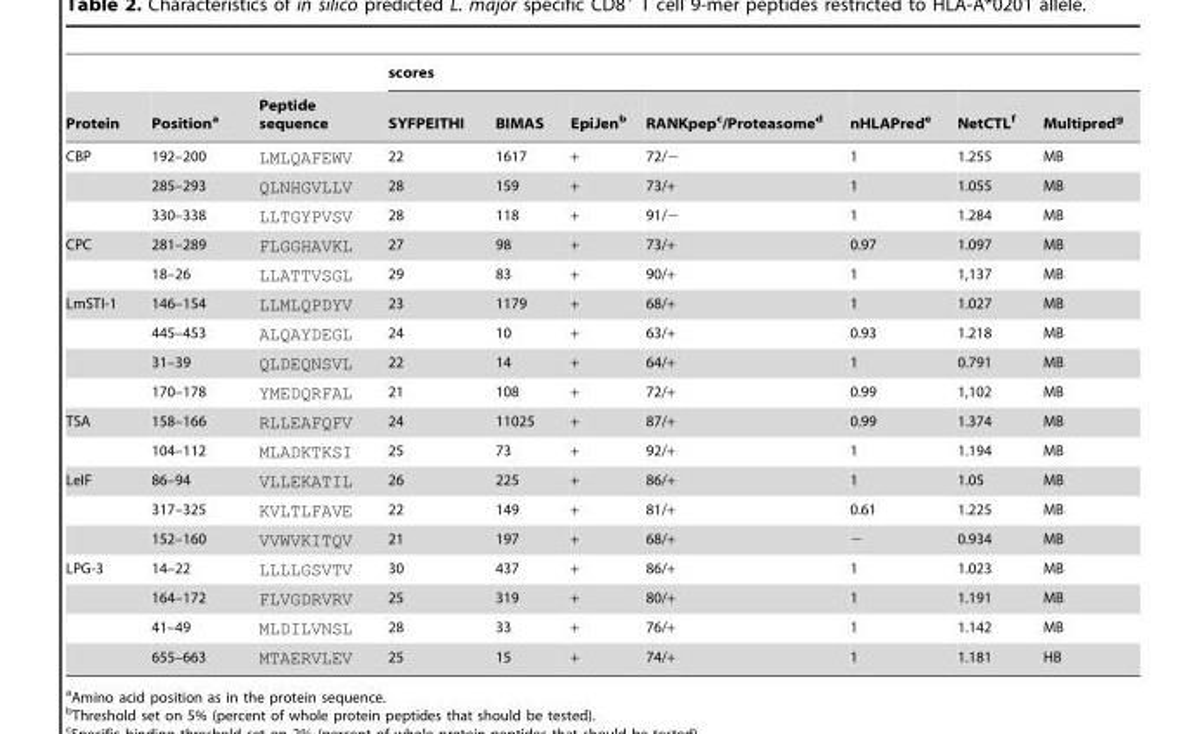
<table><thead><tr><td rowspan="2">Protein</td><td rowspan="2">Position<sup>a</sup></td><td rowspan="2">Peptide sequence</td><td colspan="7">scores</td></tr><tr><td>SYFPEITHI</td><td>BIMAS</td><td>EpiJen<sup>b</sup></td><td>RANKpep<sup>c</sup>/Proteasome<sup>d</sup></td><td>nHLAPred<sup>e</sup></td><td>NetCTL<sup>f</sup></td><td>Multipred<sup>g</sup></td></tr></thead><tbody><tr><td rowspan="3">CBP</td><td>192–200</td><td>LMLQAFEWV</td><td>22</td><td>1617</td><td>+</td><td>72/−</td><td>1</td><td>1.255</td><td>MB</td></tr><tr><td>285–293</td><td>QLNHGVLLV</td><td>28</td><td>159</td><td>+</td><td>73/+</td><td>1</td><td>1.055</td><td>MB</td></tr><tr><td>330–338</td><td>LLTGYPVSV</td><td>28</td><td>118</td><td>+</td><td>91/−</td><td>1</td><td>1.284</td><td>MB</td></tr><tr><td rowspan="2">CPC</td><td>281–289</td><td>FLGGHAVKL</td><td>27</td><td>98</td><td>+</td><td>73/+</td><td>0.97</td><td>1.097</td><td>MB</td></tr><tr><td>18–26</td><td>LLATTVSGL</td><td>29</td><td>83</td><td>+</td><td>90/+</td><td>1</td><td>1,137</td><td>MB</td></tr><tr><td rowspan="4">LmSTI-1</td><td>146–154</td><td>LLMLQPDYV</td><td>23</td><td>1179</td><td>+</td><td>68/+</td><td>1</td><td>1.027</td><td>MB</td></tr><tr><td>445–453</td><td>ALQAYDEGL</td><td>24</td><td>10</td><td>+</td><td>63/+</td><td>0.93</td><td>1.218</td><td>MB</td></tr><tr><td>31–39</td><td>QLDEQNSVL</td><td>22</td><td>14</td><td>+</td><td>64/+</td><td>1</td><td>0.791</td><td>MB</td></tr><tr><td>170–178</td><td>YMEDQRFAL</td><td>21</td><td>108</td><td>+</td><td>72/+</td><td>0.99</td><td>1,102</td><td>MB</td></tr><tr><td rowspan="2">TSA</td><td>158–166</td><td>RLLEAFQFV</td><td>24</td><td>11025</td><td>+</td><td>87/+</td><td>0.99</td><td>1.374</td><td>MB</td></tr><tr><td>104–112</td><td>MLADKTKSI</td><td>25</td><td>73</td><td>+</td><td>92/+</td><td>1</td><td>1.194</td><td>MB</td></tr><tr><td rowspan="3">LeIF</td><td>86–94</td><td>VLLEKATIL</td><td>26</td><td>225</td><td>+</td><td>86/+</td><td>1</td><td>1.05</td><td>MB</td></tr><tr><td>317–325</td><td>KVLTLFAVE</td><td>22</td><td>149</td><td>+</td><td>81/+</td><td>0.61</td><td>1.225</td><td>MB</td></tr><tr><td>152–160</td><td>VVWVKITQV</td><td>21</td><td>197</td><td>+</td><td>68/+</td><td>−</td><td>0.934</td><td>MB</td></tr><tr><td rowspan="4">LPG-3</td><td>14–22</td><td>LLLLGSVTV</td><td>30</td><td>437</td><td>+</td><td>86/+</td><td>1</td><td>1.023</td><td>MB</td></tr><tr><td>164–172</td><td>FLVGDRVRV</td><td>25</td><td>319</td><td>+</td><td>80/+</td><td>1</td><td>1.191</td><td>MB</td></tr><tr><td>41–49</td><td>MLDILVNSL</td><td>28</td><td>33</td><td>+</td><td>76/+</td><td>1</td><td>1.142</td><td>MB</td></tr><tr><td>655–663</td><td>MTAERVLEV</td><td>25</td><td>15</td><td>+</td><td>74/+</td><td>1</td><td>1.181</td><td>HB</td></tr></tbody></table>